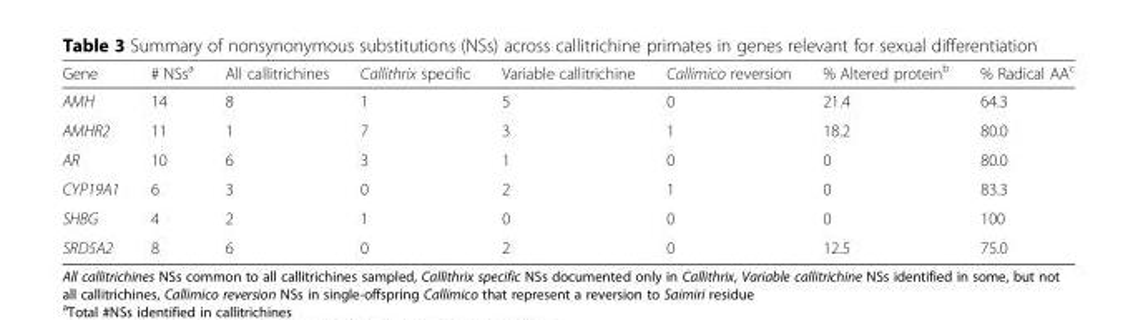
<table><thead><tr><td>Gene</td><td># NSs<sup>a</sup></td><td>All callitrichines</td><td>Callithrix specific</td><td>Variable callitrichine</td><td>Callimico reversion</td><td>% Altered protein<sup>b</sup></td><td>% Radical AA<sup>c</sup></td></tr></thead><tbody><tr><td>AMH</td><td>14</td><td>8</td><td>1</td><td>5</td><td>0</td><td>21.4</td><td>64.3</td></tr><tr><td>AMHR2</td><td>11</td><td>1</td><td>7</td><td>3</td><td>1</td><td>18.2</td><td>80.0</td></tr><tr><td>AR</td><td>10</td><td>6</td><td>3</td><td>1</td><td>0</td><td>0</td><td>80.0</td></tr><tr><td>CYP19A1</td><td>6</td><td>3</td><td>0</td><td>2</td><td>1</td><td>0</td><td>83.3</td></tr><tr><td>SHBG</td><td>4</td><td>2</td><td>1</td><td>0</td><td>0</td><td>0</td><td>100</td></tr><tr><td>SRD5A2</td><td>8</td><td>6</td><td>0</td><td>2</td><td>0</td><td>12.5</td><td>75.0</td></tr></tbody></table>